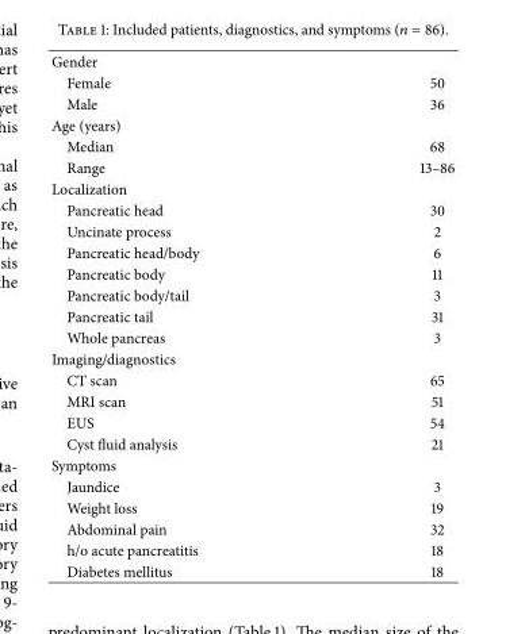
<table><tbody><tr><td colspan="2">Gender</td></tr><tr><td>Female</td><td>50</td></tr><tr><td>Male</td><td>36</td></tr><tr><td colspan="2">Age (years)</td></tr><tr><td>Median</td><td>68</td></tr><tr><td>Range</td><td>13–86</td></tr><tr><td colspan="2">Localization</td></tr><tr><td>Pancreatic head</td><td>30</td></tr><tr><td>Uncinate process</td><td>2</td></tr><tr><td>Pancreatic head/body</td><td>6</td></tr><tr><td>Pancreatic body</td><td>11</td></tr><tr><td>Pancreatic body/tail</td><td>3</td></tr><tr><td>Pancreatic tail</td><td>31</td></tr><tr><td>Whole pancreas</td><td>3</td></tr><tr><td colspan="2">Imaging/diagnostics</td></tr><tr><td>CT scan</td><td>65</td></tr><tr><td>MRI scan</td><td>51</td></tr><tr><td>EUS</td><td>54</td></tr><tr><td>Cyst fluid analysis</td><td>21</td></tr><tr><td colspan="2">Symptoms</td></tr><tr><td>Jaundice</td><td>3</td></tr><tr><td>Weight loss</td><td>19</td></tr><tr><td>Abdominal pain</td><td>32</td></tr><tr><td>h/o acute pancreatitis</td><td>18</td></tr><tr><td>Diabetes mellitus</td><td>18</td></tr></tbody></table>